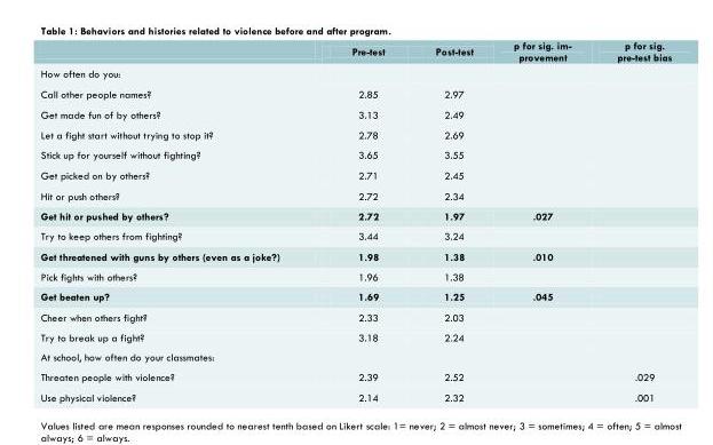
<table><thead><tr><td></td><td>Pre-test</td><td>Post-test</td><td>p for sig. im- provement</td><td>p for sig. pre-test bias</td></tr></thead><tbody><tr><td colspan="5">How often do you:</td></tr><tr><td>Call other people names?</td><td>2.85</td><td>2.97</td><td></td><td></td></tr><tr><td>Get made fun of by others?</td><td>3.13</td><td>2.49</td><td></td><td></td></tr><tr><td>Let a fight start without trying to stop it?</td><td>2.78</td><td>2.69</td><td></td><td></td></tr><tr><td>Stick up for yourself without fighting?</td><td>3.65</td><td>3.55</td><td></td><td></td></tr><tr><td>Get picked on by others?</td><td>2.71</td><td>2.45</td><td></td><td></td></tr><tr><td>Hit or push others?</td><td>2.72</td><td>2.34</td><td></td><td></td></tr><tr><td>Get hit or pushed by others?</td><td>2.72</td><td>1.97</td><td>.027</td><td></td></tr><tr><td>Try to keep others from fighting?</td><td>3.44</td><td>3.24</td><td></td><td></td></tr><tr><td>Get threatened with guns by others (even as a joke?)</td><td>1.98</td><td>1.38</td><td>.010</td><td></td></tr><tr><td>Pick fights with others?</td><td>1.96</td><td>1.38</td><td></td><td></td></tr><tr><td>Get beaten up?</td><td>1.69</td><td>1.25</td><td>.045</td><td></td></tr><tr><td>Cheer when others fight?</td><td>2.33</td><td>2.03</td><td></td><td></td></tr><tr><td>Try to break up a fight?</td><td>3.18</td><td>2.24</td><td></td><td></td></tr><tr><td colspan="5">At school, how often do your classmates:</td></tr><tr><td>Threaten people with violence?</td><td>2.39</td><td>2.52</td><td></td><td>.029</td></tr><tr><td>Use physical violence?</td><td>2.14</td><td>2.32</td><td></td><td>.001</td></tr></tbody></table>